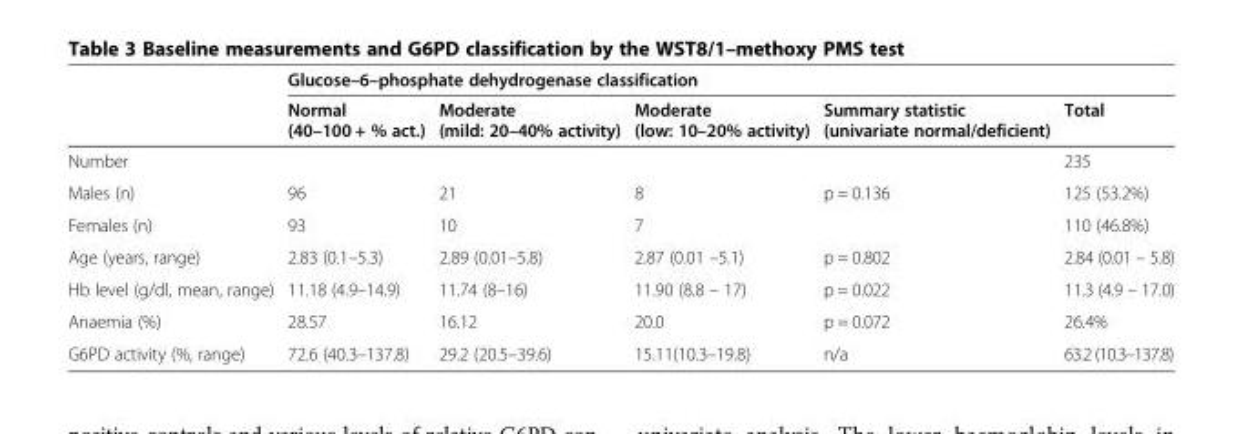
<table><thead><tr><td rowspan="2"></td><td colspan="5">Glucose–6–phosphate dehydrogenase classification</td></tr><tr><td>Normal (40–100 + % act.)</td><td>Moderate (mild: 20–40% activity)</td><td>Moderate (low: 10–20% activity)</td><td>Summary statistic (univariate normal/deficient)</td><td>Total</td></tr></thead><tbody><tr><td>Number</td><td></td><td></td><td></td><td></td><td>235</td></tr><tr><td>Males (n)</td><td>96</td><td>21</td><td>8</td><td rowspan="2">p = 0.136</td><td>125 (53.2%)</td></tr><tr><td>Females (n)</td><td>93</td><td>10</td><td>7</td><td>110 (46.8%)</td></tr><tr><td>Age (years, range)</td><td>2.83 (0.1–5.3)</td><td>2.89 (0.01–5.8)</td><td>2.87 (0.01 –5.1)</td><td>p = 0.802</td><td>2.84 (0.01 – 5.8)</td></tr><tr><td>Hb level (g/dl, mean, range)</td><td>11.18 (4.9–14.9)</td><td>11.74 (8–16)</td><td>11.90 (8.8 – 17)</td><td>p = 0.022</td><td>11.3 (4.9 – 17.0)</td></tr><tr><td>Anaemia (%)</td><td>28.57</td><td>16.12</td><td>20.0</td><td>p = 0.072</td><td>26.4%</td></tr><tr><td>G6PD activity (%, range)</td><td>72.6 (40.3–137.8)</td><td>29.2 (20.5–39.6)</td><td>15.11(10.3–19.8)</td><td>n/a</td><td>63.2 (10.3–137.8)</td></tr></tbody></table>